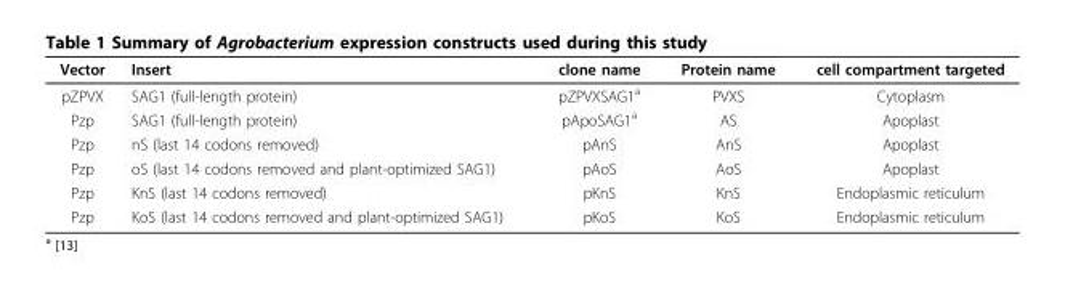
<table><thead><tr><td>Vector</td><td>Insert</td><td>clone name</td><td>Protein name</td><td>cell compartment targeted</td></tr></thead><tbody><tr><td>pZPVX</td><td>SAG1 (full-length protein)</td><td>pZPVXSAG1<sup>a</sup></td><td>PVXS</td><td>Cytoplasm</td></tr><tr><td>Pzp</td><td>SAG1 (full-length protein)</td><td>pApoSAG1<sup>a</sup></td><td>AS</td><td>Apoplast</td></tr><tr><td>Pzp</td><td>nS (last 14 codons removed)</td><td>pAnS</td><td>AnS</td><td>Apoplast</td></tr><tr><td>Pzp</td><td>oS (last 14 codons removed and plant-optimized SAG1)</td><td>pAoS</td><td>AoS</td><td>Apoplast</td></tr><tr><td>Pzp</td><td>KnS (last 14 codons removed)</td><td>pKnS</td><td>KnS</td><td>Endoplasmic reticulum</td></tr><tr><td>Pzp</td><td>KoS (last 14 codons removed and plant-optimized SAG1)</td><td>pKoS</td><td>KoS</td><td>Endoplasmic reticulum</td></tr></tbody></table>